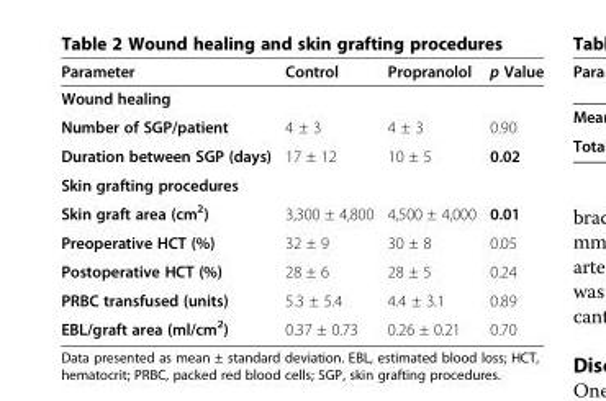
<table><thead><tr><td>Parameter</td><td>Control</td><td>Propranolol</td><td>p Value</td></tr></thead><tbody><tr><td colspan="4">Wound healing</td></tr><tr><td>Number of SGP/patient</td><td>4 ± 3</td><td>4 ± 3</td><td>0.90</td></tr><tr><td>Duration between SGP (days)</td><td>17 ± 12</td><td>10 ± 5</td><td>0.02</td></tr><tr><td colspan="4">Skin grafting procedures</td></tr><tr><td>Skin graft area (cm<sup>2</sup>)</td><td>3,300 ± 4,800</td><td>4,500 ± 4,000</td><td>0.01</td></tr><tr><td>Preoperative HCT (%)</td><td>32 ± 9</td><td>30 ± 8</td><td>0.05</td></tr><tr><td>Postoperative HCT (%)</td><td>28 ± 6</td><td>28 ± 5</td><td>0.24</td></tr><tr><td>PRBC transfused (units)</td><td>5.3 ± 5.4</td><td>4.4 ± 3.1</td><td>0.89</td></tr><tr><td>EBL/graft area (ml/cm<sup>2</sup>)</td><td>0.37 ± 0.73</td><td>0.26 ± 0.21</td><td>0.70</td></tr></tbody></table>